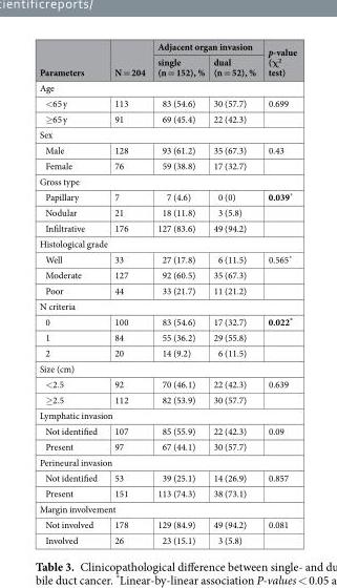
<table><thead><tr><td rowspan="2">Parameters</td><td rowspan="2">N = 204</td><td colspan="2">Adjacent organ invasion</td><td rowspan="2">p-value (χ<sup>2</sup> test)</td></tr><tr><td>single (n = 152), %</td><td>dual (n = 52), %</td></tr></thead><tbody><tr><td colspan="5">Age</td></tr><tr><td>&lt;65 y</td><td>113</td><td>83 (54.6)</td><td>30 (57.7)</td><td>0.699</td></tr><tr><td>≥65 y</td><td>91</td><td>69 (45.4)</td><td>22 (42.3)</td><td></td></tr><tr><td colspan="5">Sex</td></tr><tr><td>Male</td><td>128</td><td>93 (61.2)</td><td>35 (67.3)</td><td>0.43</td></tr><tr><td>Female</td><td>76</td><td>59 (38.8)</td><td>17 (32.7)</td><td></td></tr><tr><td colspan="5">Gross type</td></tr><tr><td>Papillary</td><td>7</td><td>7 (4.6)</td><td>0 (0)</td><td>0.039*</td></tr><tr><td>Nodular</td><td>21</td><td>18 (11.8)</td><td>3 (5.8)</td><td></td></tr><tr><td>Infiltrative</td><td>176</td><td>127 (83.6)</td><td>49 (94.2)</td><td></td></tr><tr><td colspan="5">Histological grade</td></tr><tr><td>Well</td><td>33</td><td>27 (17.8)</td><td>6 (11.5)</td><td>0.565*</td></tr><tr><td>Moderate</td><td>127</td><td>92 (60.5)</td><td>35 (67.3)</td><td></td></tr><tr><td>Poor</td><td>44</td><td>33 (21.7)</td><td>11 (21.2)</td><td></td></tr><tr><td colspan="5">N criteria</td></tr><tr><td>0</td><td>100</td><td>83 (54.6)</td><td>17 (32.7)</td><td>0.022*</td></tr><tr><td>1</td><td>84</td><td>55 (36.2)</td><td>29 (55.8)</td><td></td></tr><tr><td>2</td><td>20</td><td>14 (9.2)</td><td>6 (11.5)</td><td></td></tr><tr><td colspan="5">Size (cm)</td></tr><tr><td>&lt;2.5</td><td>92</td><td>70 (46.1)</td><td>22 (42.3)</td><td>0.639</td></tr><tr><td>≥2.5</td><td>112</td><td>82 (53.9)</td><td>30 (57.7)</td><td></td></tr><tr><td colspan="5">Lymphatic invasion</td></tr><tr><td>Not identified</td><td>107</td><td>85 (55.9)</td><td>22 (42.3)</td><td>0.09</td></tr><tr><td>Present</td><td>97</td><td>67 (44.1)</td><td>30 (57.7)</td><td></td></tr><tr><td colspan="5">Perineural invasion</td></tr><tr><td>Not identified</td><td>53</td><td>39 (25.1)</td><td>14 (26.9)</td><td>0.857</td></tr><tr><td>Present</td><td>151</td><td>113 (74.3)</td><td>38 (73.1)</td><td></td></tr><tr><td colspan="5">Margin involvement</td></tr><tr><td>Not involved</td><td>178</td><td>129 (84.9)</td><td>49 (94.2)</td><td>0.081</td></tr><tr><td>Involved</td><td>26</td><td>23 (15.1)</td><td>3 (5.8)</td><td></td></tr></tbody></table>